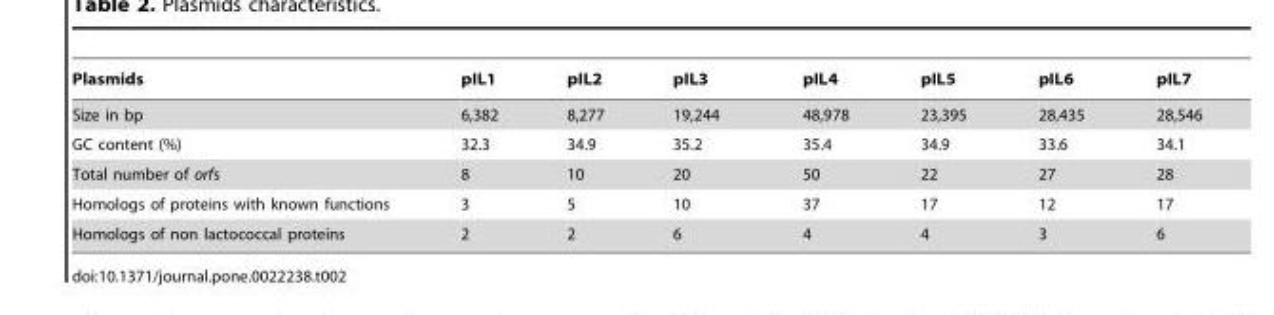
<table><thead><tr><td>Plasmids</td><td>pIL1</td><td>pIL2</td><td>pIL3</td><td>pIL4</td><td>pIL5</td><td>pIL6</td><td>pIL7</td></tr></thead><tbody><tr><td>Size in bp</td><td>6,382</td><td>8,277</td><td>19,244</td><td>48,978</td><td>23,395</td><td>28,435</td><td>28,546</td></tr><tr><td>GC content (%)</td><td>32.3</td><td>34.9</td><td>35.2</td><td>35.4</td><td>34.9</td><td>33.6</td><td>34.1</td></tr><tr><td>Total number of orfs</td><td>8</td><td>10</td><td>20</td><td>50</td><td>22</td><td>27</td><td>28</td></tr><tr><td>Homologs of proteins with known functions</td><td>3</td><td>5</td><td>10</td><td>37</td><td>17</td><td>12</td><td>17</td></tr><tr><td>Homologs of non lactococcal proteins</td><td>2</td><td>2</td><td>6</td><td>4</td><td>4</td><td>3</td><td>6</td></tr></tbody></table>